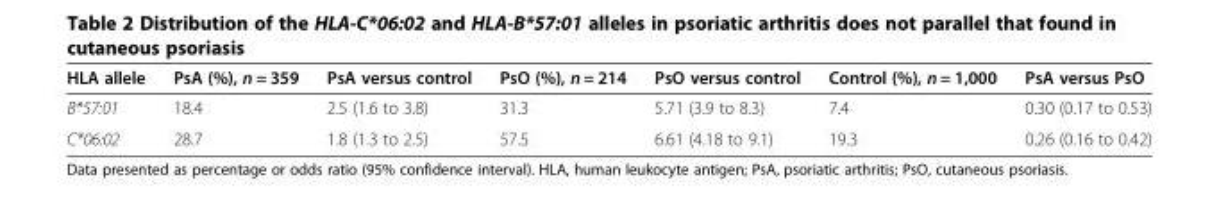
<table><thead><tr><td>HLA allele</td><td>PsA (%), n = 359</td><td>PsA versus control</td><td>PsO (%), n = 214</td><td>PsO versus control</td><td>Control (%), n = 1,000</td><td>PsA versus PsO</td></tr></thead><tbody><tr><td>B*57:01</td><td>18.4</td><td>2.5 (1.6 to 3.8)</td><td>31.3</td><td>5.71 (3.9 to 8.3)</td><td>7.4</td><td>0.30 (0.17 to 0.53)</td></tr><tr><td>C*06:02</td><td>28.7</td><td>1.8 (1.3 to 2.5)</td><td>57.5</td><td>6.61 (4.18 to 9.1)</td><td>19.3</td><td>0.26 (0.16 to 0.42)</td></tr></tbody></table>